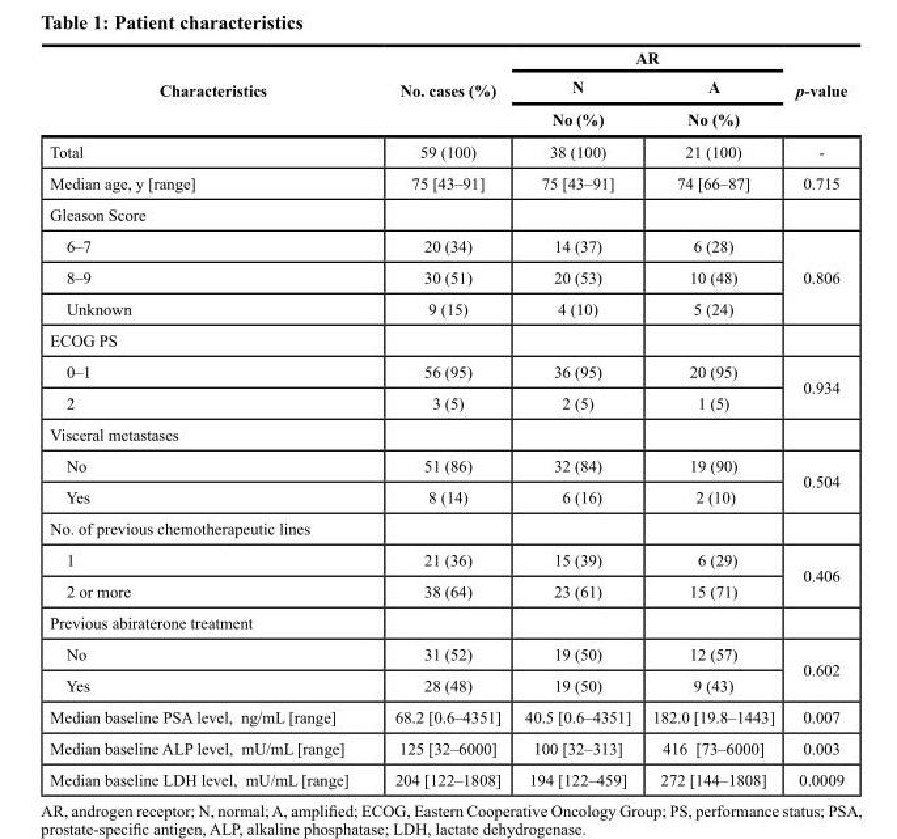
<table><thead><tr><td rowspan="3">characteristics</td><td rowspan="3">no. cases (%)</td><td colspan="2">Ar</td><td rowspan="3">p-value</td></tr><tr><td rowspan="2">n no (%)</td><td rowspan="2">A no (%)</td></tr><tr></tr></thead><tbody><tr><td>Total</td><td>59 (100)</td><td>38 (100)</td><td>21 (100)</td><td>-</td></tr><tr><td>Median age, y [range]</td><td>75 [43–91]</td><td>75 [43–91]</td><td>74 [66–87]</td><td>0.715</td></tr><tr><td colspan="5">Gleason Score</td></tr><tr><td>6–7</td><td>20 (34)</td><td>14 (37)</td><td>6 (28)</td><td rowspan="3">0.806</td></tr><tr><td>8–9</td><td>30 (51)</td><td>20 (53)</td><td>10 (48)</td></tr><tr><td>Unknown</td><td>9 (15)</td><td>4 (10)</td><td>5 (24)</td></tr><tr><td colspan="5">ECOG PS</td></tr><tr><td>0–1</td><td>56 (95)</td><td>36 (95)</td><td>20 (95)</td><td rowspan="2">0.934</td></tr><tr><td>2</td><td>3 (5)</td><td>2 (5)</td><td>1 (5)</td></tr><tr><td colspan="5">Visceral metastases</td></tr><tr><td>No</td><td>51 (86)</td><td>32 (84)</td><td>19 (90)</td><td rowspan="2">0.504</td></tr><tr><td>Yes</td><td>8 (14)</td><td>6 (16)</td><td>2 (10)</td></tr><tr><td colspan="5">No. of previous chemotherapeutic lines</td></tr><tr><td>1</td><td>21 (36)</td><td>15 (39)</td><td>6 (29)</td><td rowspan="2">0.406</td></tr><tr><td>2 or more</td><td>38 (64)</td><td>23 (61)</td><td>15 (71)</td></tr><tr><td colspan="5">Previous abiraterone treatment</td></tr><tr><td>No</td><td>31 (52)</td><td>19 (50)</td><td>12 (57)</td><td rowspan="2">0.602</td></tr><tr><td>Yes</td><td>28 (48)</td><td>19 (50)</td><td>9 (43)</td></tr><tr><td>Median baseline PSA level, ng/mL [range]</td><td>68.2 [0.6–4351]</td><td>40.5 [0.6–4351]</td><td>182.0 [19.8–1443]</td><td>0.007</td></tr><tr><td>Median baseline ALP level, mU/mL [range]</td><td>125 [32–6000]</td><td>100 [32–313]</td><td>416 [73–6000]</td><td>0.003</td></tr><tr><td>Median baseline LDH level, mU/mL [range]</td><td>204 [122–1808]</td><td>194 [122–459]</td><td>272 [144–1808]</td><td>0.0009</td></tr></tbody></table>